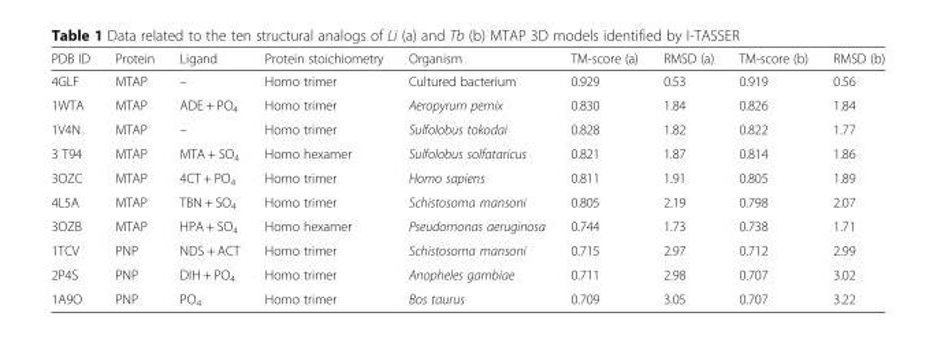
<table><thead><tr><td>PDB ID</td><td>Protein</td><td>Ligand</td><td>Protein stoichiometry</td><td>Organism</td><td>TM-score (a)</td><td>RMSD (a)</td><td>TM-score (b)</td><td>RMSD (b)</td></tr></thead><tbody><tr><td>4GLF</td><td>MTAP</td><td>–</td><td>Homo trimer</td><td>Cultured bacterium</td><td>0.929</td><td>0.53</td><td>0.919</td><td>0.56</td></tr><tr><td>1WTA</td><td>MTAP</td><td>ADE + PO<sub>4</sub></td><td>Homo trimer</td><td>Aeropyrum pernix</td><td>0.830</td><td>1.84</td><td>0.826</td><td>1.84</td></tr><tr><td>1V4N</td><td>MTAP</td><td>–</td><td>Homo trimer</td><td>Sulfolobus tokodai</td><td>0.828</td><td>1.82</td><td>0.822</td><td>1.77</td></tr><tr><td>3 T94</td><td>MTAP</td><td>MTA + SO<sub>4</sub></td><td>Homo hexamer</td><td>Sulfolobus solfataricus</td><td>0.821</td><td>1.87</td><td>0.814</td><td>1.86</td></tr><tr><td>3OZC</td><td>MTAP</td><td>4CT + PO<sub>4</sub></td><td>Homo trimer</td><td>Homo sapiens</td><td>0.811</td><td>1.91</td><td>0.805</td><td>1.89</td></tr><tr><td>4L5A</td><td>MTAP</td><td>TBN + SO<sub>4</sub></td><td>Homo trimer</td><td>Schistosoma mansoni</td><td>0.805</td><td>2.19</td><td>0.798</td><td>2.07</td></tr><tr><td>3OZB</td><td>MTAP</td><td>HPA + SO<sub>4</sub></td><td>Homo hexamer</td><td>Pseudomonas aeruginosa</td><td>0.744</td><td>1.73</td><td>0.738</td><td>1.71</td></tr><tr><td>1TCV</td><td>PNP</td><td>NDS + ACT</td><td>Homo trimer</td><td>Schistosoma mansoni</td><td>0.715</td><td>2.97</td><td>0.712</td><td>2.99</td></tr><tr><td>2P4S</td><td>PNP</td><td>DIH + PO<sub>4</sub></td><td>Homo trimer</td><td>Anopheles gambiae</td><td>0.711</td><td>2.98</td><td>0.707</td><td>3.02</td></tr><tr><td>1A9O</td><td>PNP</td><td>PO<sub>4</sub></td><td>Homo trimer</td><td>Bos taurus</td><td>0.709</td><td>3.05</td><td>0.707</td><td>3.22</td></tr></tbody></table>